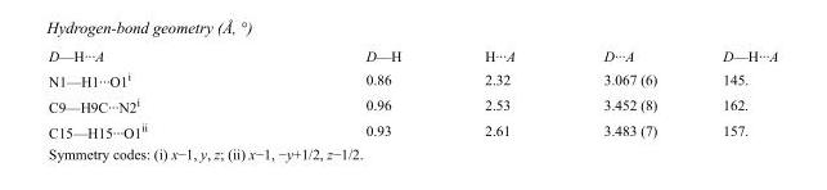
<table><tbody><tr><td>D—H···A</td><td>D—H</td><td>H···A</td><td>D···A</td><td>D—H···A</td></tr><tr><td>N1—H1···O1<sup>i</sup></td><td>0.86</td><td>2.32</td><td>3.067 (6)</td><td>145.</td></tr><tr><td>C9—H9C···N2<sup>i</sup></td><td>0.96</td><td>2.53</td><td>3.452 (8)</td><td>162.</td></tr><tr><td>C15—H15···O1<sup>ii</sup></td><td>0.93</td><td>2.61</td><td>3.483 (7)</td><td>157.</td></tr></tbody></table>